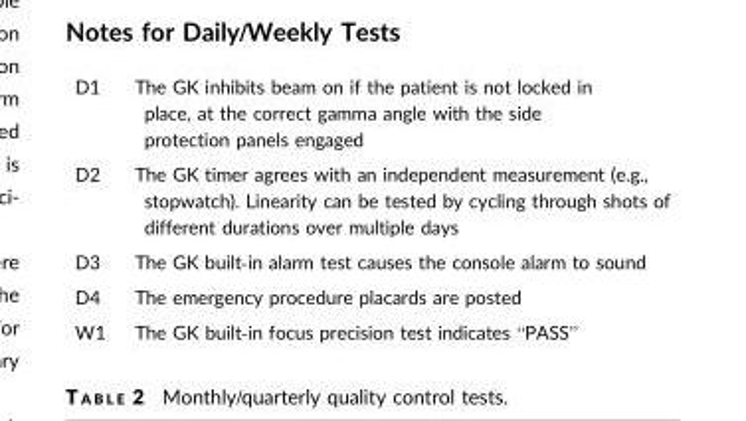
<table><tbody><tr><td>D1</td><td>The GK inhibits beam on if the patient is not locked in place, at the correct gamma angle with the side protection panels engaged</td></tr><tr><td>D2</td><td>The GK timer agrees with an independent measurement (e.g., stopwatch). Linearity can be tested by cycling through shots of different durations over multiple days</td></tr><tr><td>D3</td><td>The GK built‐in alarm test causes the console alarm to sound</td></tr><tr><td>D4</td><td>The emergency procedure placards are posted</td></tr><tr><td>W1</td><td>The GK built‐in focus precision test indicates “PASS”</td></tr></tbody></table>